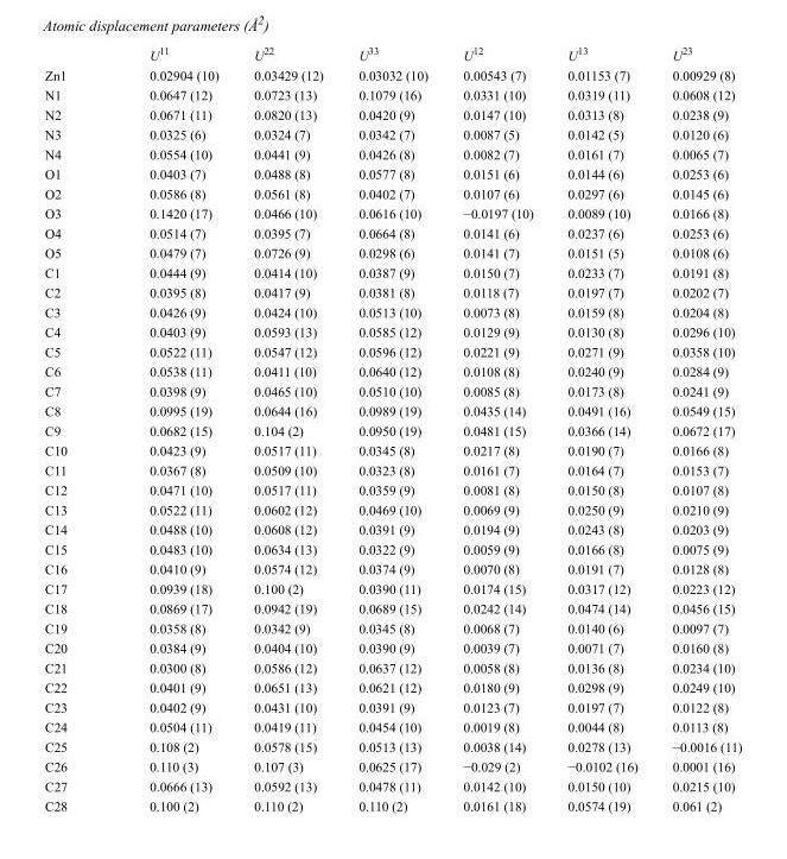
<table><thead><tr><td></td><td>U<sup>11</sup></td><td>U<sup>22</sup></td><td>U<sup>33</sup></td><td>U<sup>12</sup></td><td>U<sup>13</sup></td><td>U<sup>23</sup></td></tr></thead><tbody><tr><td>Zn1</td><td>0.02904 (10)</td><td>0.03429 (12)</td><td>0.03032 (10)</td><td>0.00543 (7)</td><td>0.01153 (7)</td><td>0.00929 (8)</td></tr><tr><td>N1</td><td>0.0647 (12)</td><td>0.0723 (13)</td><td>0.1079 (16)</td><td>0.0331 (10)</td><td>0.0319 (11)</td><td>0.0608 (12)</td></tr><tr><td>N2</td><td>0.0671 (11)</td><td>0.0820 (13)</td><td>0.0420 (9)</td><td>0.0147 (10)</td><td>0.0313 (8)</td><td>0.0238 (9)</td></tr><tr><td>N3</td><td>0.0325 (6)</td><td>0.0324 (7)</td><td>0.0342 (7)</td><td>0.0087 (5)</td><td>0.0142 (5)</td><td>0.0120 (6)</td></tr><tr><td>N4</td><td>0.0554 (10)</td><td>0.0441 (9)</td><td>0.0426 (8)</td><td>0.0082 (7)</td><td>0.0161 (7)</td><td>0.0065 (7)</td></tr><tr><td>O1</td><td>0.0403 (7)</td><td>0.0488 (8)</td><td>0.0577 (8)</td><td>0.0151 (6)</td><td>0.0144 (6)</td><td>0.0253 (6)</td></tr><tr><td>O2</td><td>0.0586 (8)</td><td>0.0561 (8)</td><td>0.0402 (7)</td><td>0.0107 (6)</td><td>0.0297 (6)</td><td>0.0145 (6)</td></tr><tr><td>O3</td><td>0.1420 (17)</td><td>0.0466 (10)</td><td>0.0616 (10)</td><td>−0.0197 (10)</td><td>0.0089 (10)</td><td>0.0166 (8)</td></tr><tr><td>O4</td><td>0.0514 (7)</td><td>0.0395 (7)</td><td>0.0664 (8)</td><td>0.0141 (6)</td><td>0.0237 (6)</td><td>0.0253 (6)</td></tr><tr><td>O5</td><td>0.0479 (7)</td><td>0.0726 (9)</td><td>0.0298 (6)</td><td>0.0141 (7)</td><td>0.0151 (5)</td><td>0.0108 (6)</td></tr><tr><td>C1</td><td>0.0444 (9)</td><td>0.0414 (10)</td><td>0.0387 (9)</td><td>0.0150 (7)</td><td>0.0233 (7)</td><td>0.0191 (8)</td></tr><tr><td>C2</td><td>0.0395 (8)</td><td>0.0417 (9)</td><td>0.0381 (8)</td><td>0.0118 (7)</td><td>0.0197 (7)</td><td>0.0202 (7)</td></tr><tr><td>C3</td><td>0.0426 (9)</td><td>0.0424 (10)</td><td>0.0513 (10)</td><td>0.0073 (8)</td><td>0.0159 (8)</td><td>0.0204 (8)</td></tr><tr><td>C4</td><td>0.0403 (9)</td><td>0.0593 (13)</td><td>0.0585 (12)</td><td>0.0129 (9)</td><td>0.0130 (8)</td><td>0.0296 (10)</td></tr><tr><td>C5</td><td>0.0522 (11)</td><td>0.0547 (12)</td><td>0.0596 (12)</td><td>0.0221 (9)</td><td>0.0271 (9)</td><td>0.0358 (10)</td></tr><tr><td>C6</td><td>0.0538 (11)</td><td>0.0411 (10)</td><td>0.0640 (12)</td><td>0.0108 (8)</td><td>0.0240 (9)</td><td>0.0284 (9)</td></tr><tr><td>C7</td><td>0.0398 (9)</td><td>0.0465 (10)</td><td>0.0510 (10)</td><td>0.0085 (8)</td><td>0.0173 (8)</td><td>0.0241 (9)</td></tr><tr><td>C8</td><td>0.0995 (19)</td><td>0.0644 (16)</td><td>0.0989 (19)</td><td>0.0435 (14)</td><td>0.0491 (16)</td><td>0.0549 (15)</td></tr><tr><td>C9</td><td>0.0682 (15)</td><td>0.104 (2)</td><td>0.0950 (19)</td><td>0.0481 (15)</td><td>0.0366 (14)</td><td>0.0672 (17)</td></tr><tr><td>C10</td><td>0.0423 (9)</td><td>0.0517 (11)</td><td>0.0345 (8)</td><td>0.0217 (8)</td><td>0.0190 (7)</td><td>0.0166 (8)</td></tr><tr><td>C11</td><td>0.0367 (8)</td><td>0.0509 (10)</td><td>0.0323 (8)</td><td>0.0161 (7)</td><td>0.0164 (7)</td><td>0.0153 (7)</td></tr><tr><td>C12</td><td>0.0471 (10)</td><td>0.0517 (11)</td><td>0.0359 (9)</td><td>0.0081 (8)</td><td>0.0150 (8)</td><td>0.0107 (8)</td></tr><tr><td>C13</td><td>0.0522 (11)</td><td>0.0602 (12)</td><td>0.0469 (10)</td><td>0.0069 (9)</td><td>0.0250 (9)</td><td>0.0210 (9)</td></tr><tr><td>C14</td><td>0.0488 (10)</td><td>0.0608 (12)</td><td>0.0391 (9)</td><td>0.0194 (9)</td><td>0.0243 (8)</td><td>0.0203 (9)</td></tr><tr><td>C15</td><td>0.0483 (10)</td><td>0.0634 (13)</td><td>0.0322 (9)</td><td>0.0059 (9)</td><td>0.0166 (8)</td><td>0.0075 (9)</td></tr><tr><td>C16</td><td>0.0410 (9)</td><td>0.0574 (12)</td><td>0.0374 (9)</td><td>0.0070 (8)</td><td>0.0191 (7)</td><td>0.0128 (8)</td></tr><tr><td>C17</td><td>0.0939 (18)</td><td>0.100 (2)</td><td>0.0390 (11)</td><td>0.0174 (15)</td><td>0.0317 (12)</td><td>0.0223 (12)</td></tr><tr><td>C18</td><td>0.0869 (17)</td><td>0.0942 (19)</td><td>0.0689 (15)</td><td>0.0242 (14)</td><td>0.0474 (14)</td><td>0.0456 (15)</td></tr><tr><td>C19</td><td>0.0358 (8)</td><td>0.0342 (9)</td><td>0.0345 (8)</td><td>0.0068 (7)</td><td>0.0140 (6)</td><td>0.0097 (7)</td></tr><tr><td>C20</td><td>0.0384 (9)</td><td>0.0404 (10)</td><td>0.0390 (9)</td><td>0.0039 (7)</td><td>0.0071 (7)</td><td>0.0160 (8)</td></tr><tr><td>C21</td><td>0.0300 (8)</td><td>0.0586 (12)</td><td>0.0637 (12)</td><td>0.0058 (8)</td><td>0.0136 (8)</td><td>0.0234 (10)</td></tr><tr><td>C22</td><td>0.0401 (9)</td><td>0.0651 (13)</td><td>0.0621 (12)</td><td>0.0180 (9)</td><td>0.0298 (9)</td><td>0.0249 (10)</td></tr><tr><td>C23</td><td>0.0402 (9)</td><td>0.0431 (10)</td><td>0.0391 (9)</td><td>0.0123 (7)</td><td>0.0197 (7)</td><td>0.0122 (8)</td></tr><tr><td>C24</td><td>0.0504 (11)</td><td>0.0419 (11)</td><td>0.0454 (10)</td><td>0.0019 (8)</td><td>0.0044 (8)</td><td>0.0113 (8)</td></tr><tr><td>C25</td><td>0.108 (2)</td><td>0.0578 (15)</td><td>0.0513 (13)</td><td>0.0038 (14)</td><td>0.0278 (13)</td><td>−0.0016 (11)</td></tr><tr><td>C26</td><td>0.110 (3)</td><td>0.107 (3)</td><td>0.0625 (17)</td><td>−0.029 (2)</td><td>−0.0102 (16)</td><td>0.0001 (16)</td></tr><tr><td>C27</td><td>0.0666 (13)</td><td>0.0592 (13)</td><td>0.0478 (11)</td><td>0.0142 (10)</td><td>0.0150 (10)</td><td>0.0215 (10)</td></tr><tr><td>C28</td><td>0.100 (2)</td><td>0.110 (2)</td><td>0.110 (2)</td><td>0.0161 (18)</td><td>0.0574 (19)</td><td>0.061 (2)</td></tr></tbody></table>